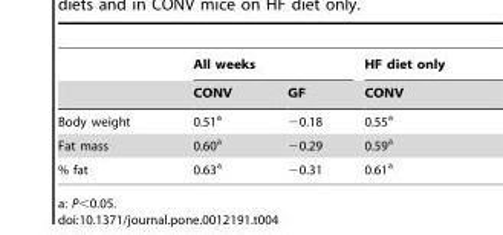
<table><thead><tr><td rowspan="2"></td><td colspan="2">All weeks</td><td rowspan="2">HF diet only CONV</td></tr><tr><td>CONV</td><td>GF</td></tr></thead><tbody><tr><td>Body weight</td><td>0.51<sup>a</sup></td><td>−0.18</td><td>0.55<sup>a</sup></td></tr><tr><td>Fat mass</td><td>0.60<sup>a</sup></td><td>−0.29</td><td>0.59<sup>a</sup></td></tr><tr><td>% fat</td><td>0.63<sup>a</sup></td><td>−0.31</td><td>0.61<sup>a</sup></td></tr></tbody></table>